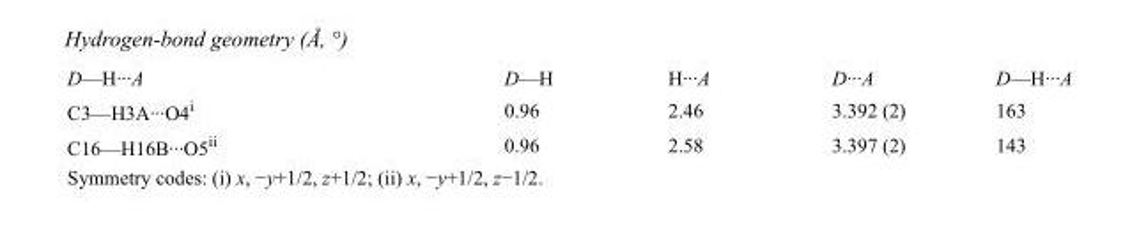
<table><tbody><tr><td>D—H···A</td><td>D—H</td><td>H···A</td><td>D···A</td><td>D—H···A</td></tr><tr><td>C3—H3A···O4<sup>i</sup></td><td>0.96</td><td>2.46</td><td>3.392 (2)</td><td>163</td></tr><tr><td>C16—H16B···O5<sup>ii</sup></td><td>0.96</td><td>2.58</td><td>3.397 (2)</td><td>143</td></tr></tbody></table>